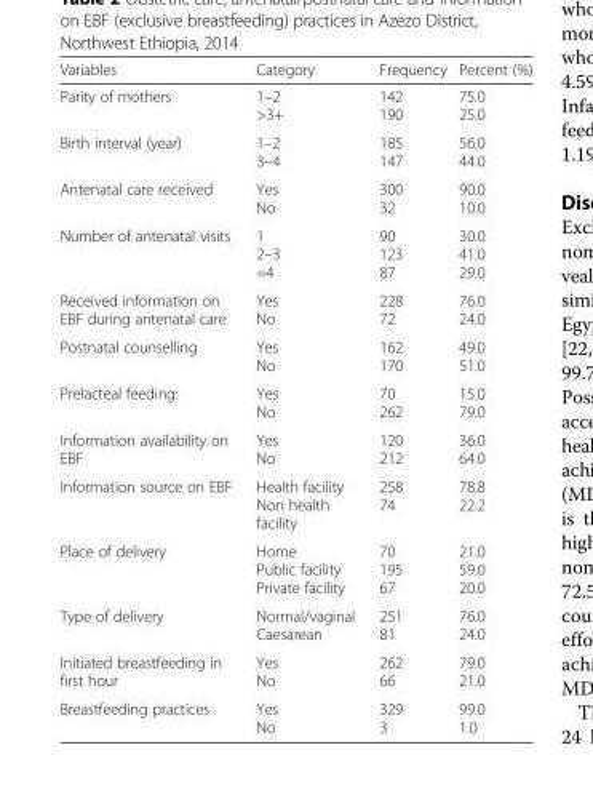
<table><thead><tr><td>Variables</td><td>Category</td><td>Frequency</td><td>Percent (%)</td></tr></thead><tbody><tr><td>Parity of mothers</td><td>1–2 &gt;3+</td><td>142 190</td><td>75.0 25.0</td></tr><tr><td>Birth interval (year)</td><td>1–2 3–4</td><td>185 147</td><td>56.0 44.0</td></tr><tr><td>Antenatal care received</td><td>Yes No</td><td>300 32</td><td>90.0 10.0</td></tr><tr><td>Number of antenatal visits</td><td>1 2–3 =4</td><td>90 123 87</td><td>30.0 41.0 29.0</td></tr><tr><td>Received information on EBF during antenatal care</td><td>Yes No</td><td>228 72</td><td>76.0 24.0</td></tr><tr><td>Postnatal counselling</td><td>Yes No</td><td>162 170</td><td>49.0 51.0</td></tr><tr><td>Prelacteal feeding:</td><td>Yes No</td><td>70 262</td><td>15.0 79.0</td></tr><tr><td>Information availability on EBF</td><td>Yes No</td><td>120 212</td><td>36.0 64.0</td></tr><tr><td>Information source on EBF</td><td>Health facility Non health facility</td><td>258 74</td><td>78.8 22.2</td></tr><tr><td>Place of delivery</td><td>Home Public facility Private facility</td><td>70 195 67</td><td>21.0 59.0 20.0</td></tr><tr><td>Type of delivery</td><td>Normal/vaginal Caesarean</td><td>251 81</td><td>76.0 24.0</td></tr><tr><td>Initiated breastfeeding in first hour</td><td>Yes No</td><td>262 66</td><td>79.0 21.0</td></tr><tr><td>Breastfeeding practices</td><td>Yes No</td><td>329 3</td><td>99.0 1.0</td></tr></tbody></table>